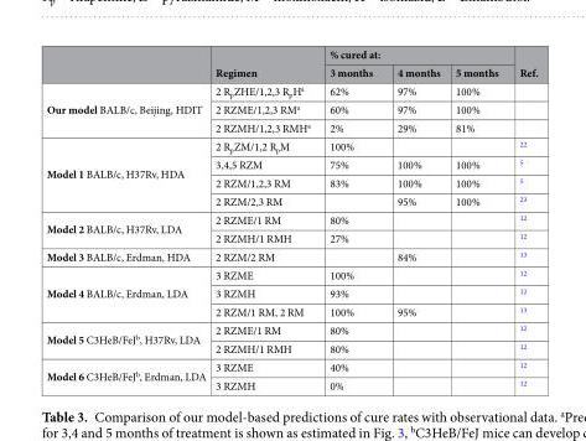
<table><thead><tr><td rowspan="2"></td><td rowspan="2">Regimen</td><td colspan="3">% cured at:</td><td rowspan="2">Ref.</td></tr><tr><td>3 months</td><td>4 months</td><td>5 months</td></tr></thead><tbody><tr><td rowspan="3">Our model BALB/c, Beijing, HDIT</td><td>2 R<sub>p</sub>ZHE/1,2,3 R<sub>p</sub>H<sup>a</sup></td><td>62%</td><td>97%</td><td>100%</td><td></td></tr><tr><td>2 RZME/1,2,3 RM<sup>a</sup></td><td>60%</td><td>97%</td><td>100%</td><td></td></tr><tr><td>2 RZMH/1,2,3 RMH<sup>a</sup></td><td>2%</td><td>29%</td><td>81%</td><td></td></tr><tr><td rowspan="4">Model 1 BALB/c, H37Rv, HDA</td><td>2 R<sub>p</sub>ZM/1,2 R<sub>p</sub>M</td><td>100%</td><td></td><td></td><td><sup>22</sup></td></tr><tr><td>3,4,5 RZM</td><td>75%</td><td>100%</td><td>100%</td><td><sup>5</sup></td></tr><tr><td>2 RZM/1,2,3 RM</td><td>83%</td><td>100%</td><td>100%</td><td><sup>5</sup></td></tr><tr><td>2 RZM/2,3 RM</td><td></td><td>95%</td><td>100%</td><td><sup>23</sup></td></tr><tr><td rowspan="2">Model 2 BALB/c, H37Rv, LDA</td><td>2 RZME/1 RM</td><td>80%</td><td></td><td></td><td><sup>12</sup></td></tr><tr><td>2 RZMH/1 RMH</td><td>27%</td><td></td><td></td><td><sup>12</sup></td></tr><tr><td>Model 3 BALB/c, Erdman, HDA</td><td>2 RZM/2 RM</td><td></td><td>84%</td><td></td><td><sup>13</sup></td></tr><tr><td rowspan="3">Model 4 BALB/c, Erdman, LDA</td><td>3 RZME</td><td>100%</td><td></td><td></td><td><sup>12</sup></td></tr><tr><td>3 RZMH</td><td>93%</td><td></td><td></td><td><sup>12</sup></td></tr><tr><td>2 RZM/1 RM, 2 RM</td><td>100%</td><td>95%</td><td></td><td><sup>13</sup></td></tr><tr><td rowspan="2">Model 5 C3HeB/FeJ<sup>b</sup>, H37Rv, LDA</td><td>2 RZME/1 RM</td><td>80%</td><td></td><td></td><td><sup>12</sup></td></tr><tr><td>2 RZMH/1 RMH</td><td>80%</td><td></td><td></td><td><sup>12</sup></td></tr><tr><td rowspan="2">Model 6 C3HeB/FeJ<sup>b</sup>, Erdman, LDA</td><td>3 RZME</td><td>40%</td><td></td><td></td><td><sup>12</sup></td></tr><tr><td>3 RZMH</td><td>0%</td><td></td><td></td><td><sup>12</sup></td></tr></tbody></table>